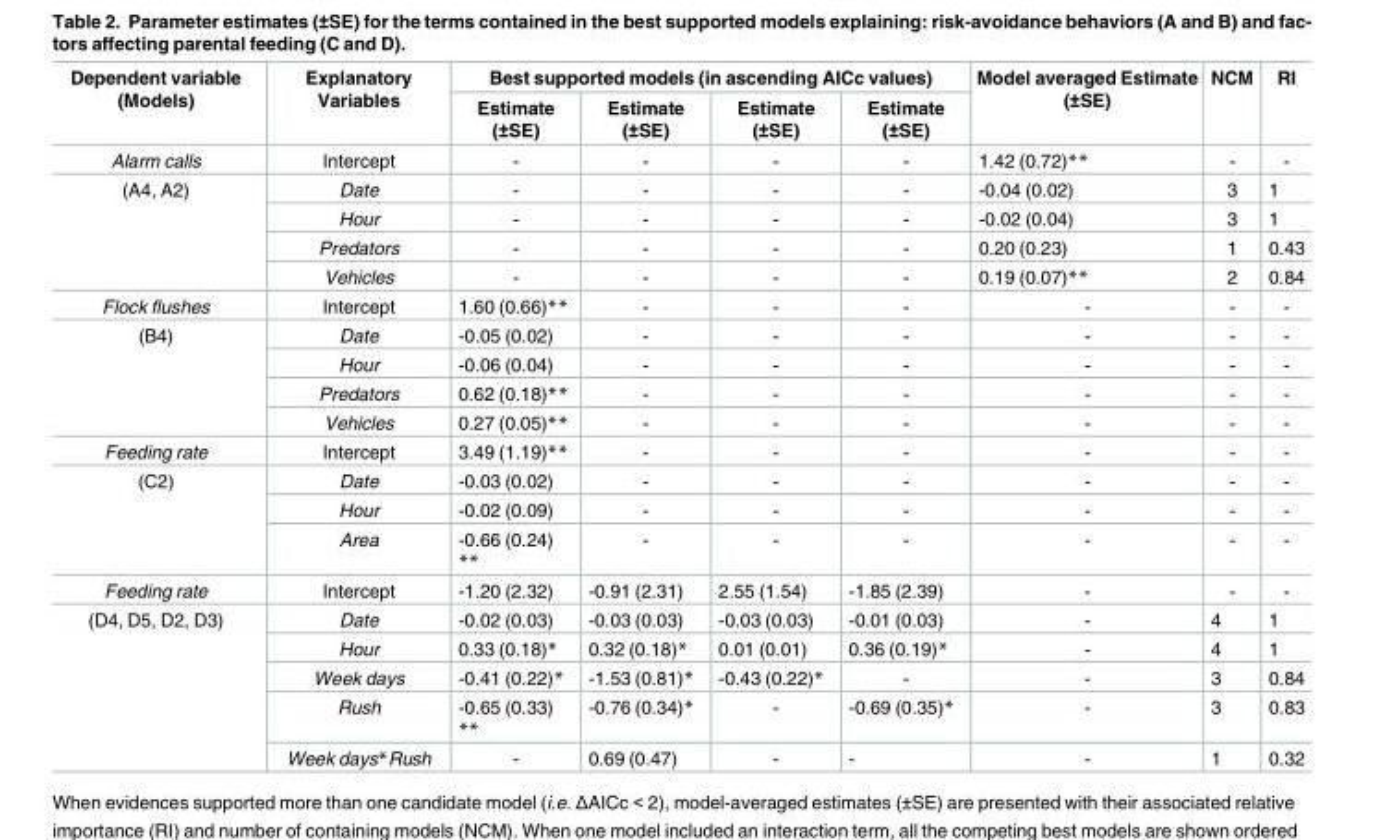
<table><thead><tr><td rowspan="2">Dependent variable (Models)</td><td rowspan="2">Explanatory Variables</td><td colspan="4">Best supported models (in ascending AICc values)</td><td rowspan="2">Model averaged Estimate (±SE)</td><td rowspan="2">NCM</td><td rowspan="2">RI</td></tr><tr><td>Estimate (±SE)</td><td>Estimate (±SE)</td><td>Estimate (±SE)</td><td>Estimate (±SE)</td></tr></thead><tbody><tr><td>Alarm calls</td><td>Intercept</td><td>-</td><td>-</td><td>-</td><td>-</td><td>1.42 (0.72)**</td><td>-</td><td>-</td></tr><tr><td rowspan="4">(A4, A2)</td><td>Date</td><td>-</td><td>-</td><td>-</td><td>-</td><td>-0.04 (0.02)</td><td>3</td><td>1</td></tr><tr><td>Hour</td><td>-</td><td>-</td><td>-</td><td>-</td><td>-0.02 (0.04)</td><td>3</td><td>1</td></tr><tr><td>Predators</td><td>-</td><td>-</td><td>-</td><td>-</td><td>0.20 (0.23)</td><td>1</td><td>0.43</td></tr><tr><td>Vehicles</td><td>-</td><td>-</td><td>-</td><td>-</td><td>0.19 (0.07)**</td><td>2</td><td>0.84</td></tr><tr><td>Flock flushes</td><td>Intercept</td><td>1.60 (0.66)**</td><td>-</td><td>-</td><td>-</td><td>-</td><td>-</td><td>-</td></tr><tr><td rowspan="4">(B4)</td><td>Date</td><td>-0.05 (0.02)</td><td>-</td><td>-</td><td>-</td><td>-</td><td>-</td><td>-</td></tr><tr><td>Hour</td><td>-0.06 (0.04)</td><td>-</td><td>-</td><td>-</td><td>-</td><td>-</td><td>-</td></tr><tr><td>Predators</td><td>0.62 (0.18)**</td><td>-</td><td>-</td><td>-</td><td>-</td><td>-</td><td>-</td></tr><tr><td>Vehicles</td><td>0.27 (0.05)**</td><td>-</td><td>-</td><td>-</td><td>-</td><td>-</td><td>-</td></tr><tr><td>Feeding rate</td><td>Intercept</td><td>3.49 (1.19)**</td><td>-</td><td>-</td><td>-</td><td>-</td><td>-</td><td>-</td></tr><tr><td rowspan="3">(C2)</td><td>Date</td><td>-0.03 (0.02)</td><td>-</td><td>-</td><td>-</td><td>-</td><td>-</td><td>-</td></tr><tr><td>Hour</td><td>-0.02 (0.09)</td><td>-</td><td>-</td><td>-</td><td>-</td><td>-</td><td>-</td></tr><tr><td>Area</td><td>-0.66 (0.24) **</td><td>-</td><td>-</td><td>-</td><td>-</td><td>-</td><td>-</td></tr><tr><td>Feeding rate</td><td>Intercept</td><td>-1.20 (2.32)</td><td>-0.91 (2.31)</td><td>2.55 (1.54)</td><td>-1.85 (2.39)</td><td>-</td><td>-</td><td>-</td></tr><tr><td rowspan="5">(D4, D5, D2, D3)</td><td>Date</td><td>-0.02 (0.03)</td><td>-0.03 (0.03)</td><td>-0.03 (0.03)</td><td>-0.01 (0.03)</td><td>-</td><td>4</td><td>1</td></tr><tr><td>Hour</td><td>0.33 (0.18)*</td><td>0.32 (0.18)*</td><td>0.01 (0.01)</td><td>0.36 (0.19)*</td><td>-</td><td>4</td><td>1</td></tr><tr><td>Week days</td><td>-0.41 (0.22)*</td><td>-1.53 (0.81)*</td><td>-0.43 (0.22)*</td><td>-</td><td>-</td><td>3</td><td>0.84</td></tr><tr><td>Rush</td><td>-0.65 (0.33) **</td><td>-0.76 (0.34)*</td><td>-</td><td>-0.69 (0.35)*</td><td>-</td><td>3</td><td>0.83</td></tr><tr><td>Week days*Rush</td><td>-</td><td>0.69 (0.47)</td><td>-</td><td>-</td><td>-</td><td>1</td><td>0.32</td></tr></tbody></table>